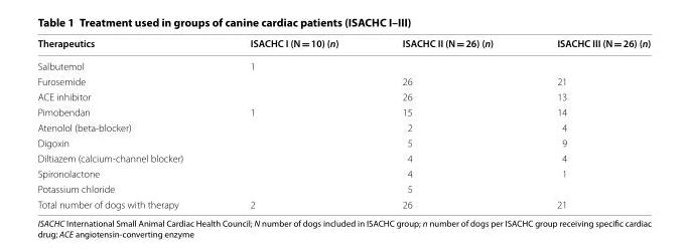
<table><thead><tr><td>Therapeutics</td><td>ISACHC I (N = 10) (n)</td><td>ISACHC II (N = 26) (n)</td><td>ISACHC III (N = 26) (n)</td></tr></thead><tbody><tr><td>Salbutemol</td><td>1</td><td></td><td></td></tr><tr><td>Furosemide</td><td></td><td>26</td><td>21</td></tr><tr><td>ACE inhibitor</td><td></td><td>26</td><td>13</td></tr><tr><td>Pimobendan</td><td>1</td><td>15</td><td>14</td></tr><tr><td>Atenolol (beta-blocker)</td><td></td><td>2</td><td>4</td></tr><tr><td>Digoxin</td><td></td><td>5</td><td>9</td></tr><tr><td>Diltiazem (calcium-channel blocker)</td><td></td><td>4</td><td>4</td></tr><tr><td>Spironolactone</td><td></td><td>4</td><td>1</td></tr><tr><td>Potassium chloride</td><td></td><td>5</td><td></td></tr><tr><td>Total number of dogs with therapy</td><td>2</td><td>26</td><td>21</td></tr></tbody></table>